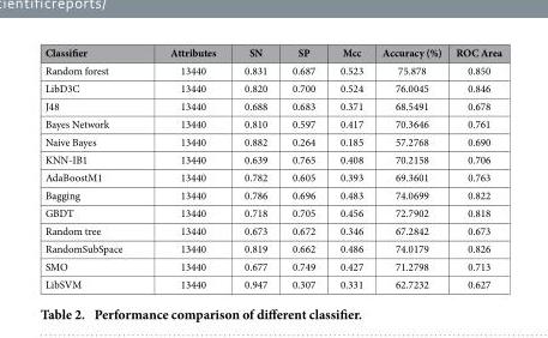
<table><thead><tr><td>Classifier</td><td>Attributes</td><td>SN</td><td>SP</td><td>Mcc</td><td>Accuracy (%)</td><td>ROC Area</td></tr></thead><tbody><tr><td>Random forest</td><td>13440</td><td>0.831</td><td>0.687</td><td>0.523</td><td>75.878</td><td>0.850</td></tr><tr><td>LibD3C</td><td>13440</td><td>0.820</td><td>0.700</td><td>0.524</td><td>76.0045</td><td>0.846</td></tr><tr><td>J48</td><td>13440</td><td>0.688</td><td>0.683</td><td>0.371</td><td>68.5491</td><td>0.678</td></tr><tr><td>Bayes Network</td><td>13440</td><td>0.810</td><td>0.597</td><td>0.417</td><td>70.3646</td><td>0.761</td></tr><tr><td>Naive Bayes</td><td>13440</td><td>0.882</td><td>0.264</td><td>0.185</td><td>57.2768</td><td>0.690</td></tr><tr><td>KNN-IB1</td><td>13440</td><td>0.639</td><td>0.765</td><td>0.408</td><td>70.2158</td><td>0.706</td></tr><tr><td>AdaBoostM1</td><td>13440</td><td>0.782</td><td>0.605</td><td>0.393</td><td>69.3601</td><td>0.763</td></tr><tr><td>Bagging</td><td>13440</td><td>0.786</td><td>0.696</td><td>0.483</td><td>74.0699</td><td>0.822</td></tr><tr><td>GBDT</td><td>13440</td><td>0.718</td><td>0.705</td><td>0.456</td><td>72.7902</td><td>0.818</td></tr><tr><td>Random tree</td><td>13440</td><td>0.673</td><td>0.672</td><td>0.346</td><td>67.2842</td><td>0.673</td></tr><tr><td>RandomSubSpace</td><td>13440</td><td>0.819</td><td>0.662</td><td>0.486</td><td>74.0179</td><td>0.826</td></tr><tr><td>SMO</td><td>13440</td><td>0.677</td><td>0.749</td><td>0.427</td><td>71.2798</td><td>0.713</td></tr><tr><td>LibSVM</td><td>13440</td><td>0.947</td><td>0.307</td><td>0.331</td><td>62.7232</td><td>0.627</td></tr></tbody></table>